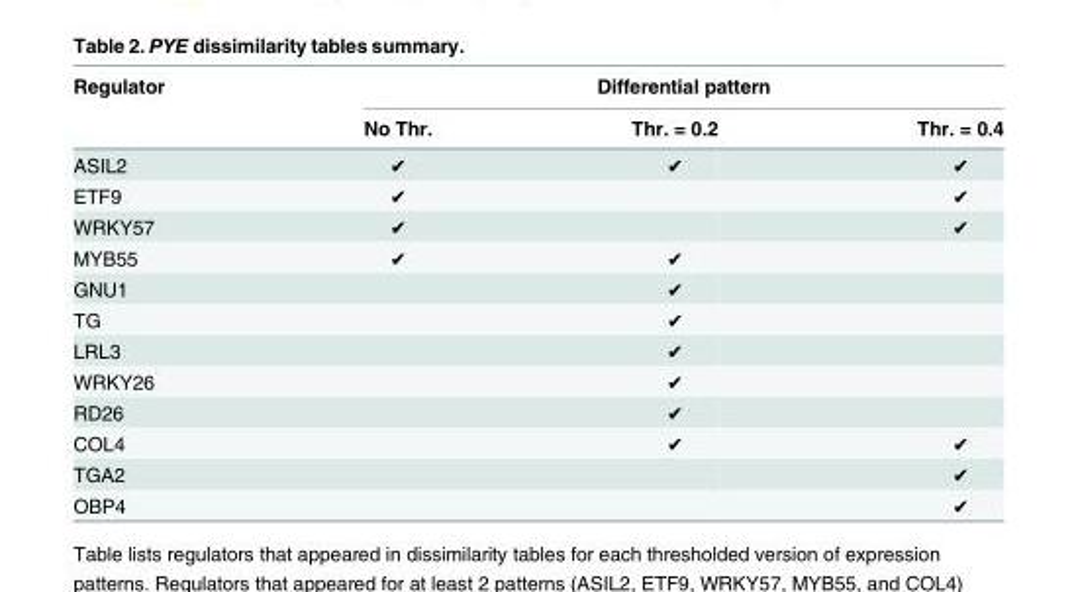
<table><thead><tr><td rowspan="2">Regulator</td><td colspan="3">Differential pattern</td></tr><tr><td>No Thr.</td><td>Thr. = 0.2</td><td>Thr. = 0.4</td></tr></thead><tbody><tr><td>ASIL2</td><td>✔</td><td>✔</td><td>✔</td></tr><tr><td>ETF9</td><td>✔</td><td></td><td>✔</td></tr><tr><td>WRKY57</td><td>✔</td><td></td><td>✔</td></tr><tr><td>MYB55</td><td>✔</td><td>✔</td><td></td></tr><tr><td>GNU1</td><td></td><td>✔</td><td></td></tr><tr><td>TG</td><td></td><td>✔</td><td></td></tr><tr><td>LRL3</td><td></td><td>✔</td><td></td></tr><tr><td>WRKY26</td><td></td><td>✔</td><td></td></tr><tr><td>RD26</td><td></td><td>✔</td><td></td></tr><tr><td>COL4</td><td></td><td>✔</td><td>✔</td></tr><tr><td>TGA2</td><td></td><td></td><td>✔</td></tr><tr><td>OBP4</td><td></td><td></td><td>✔</td></tr></tbody></table>